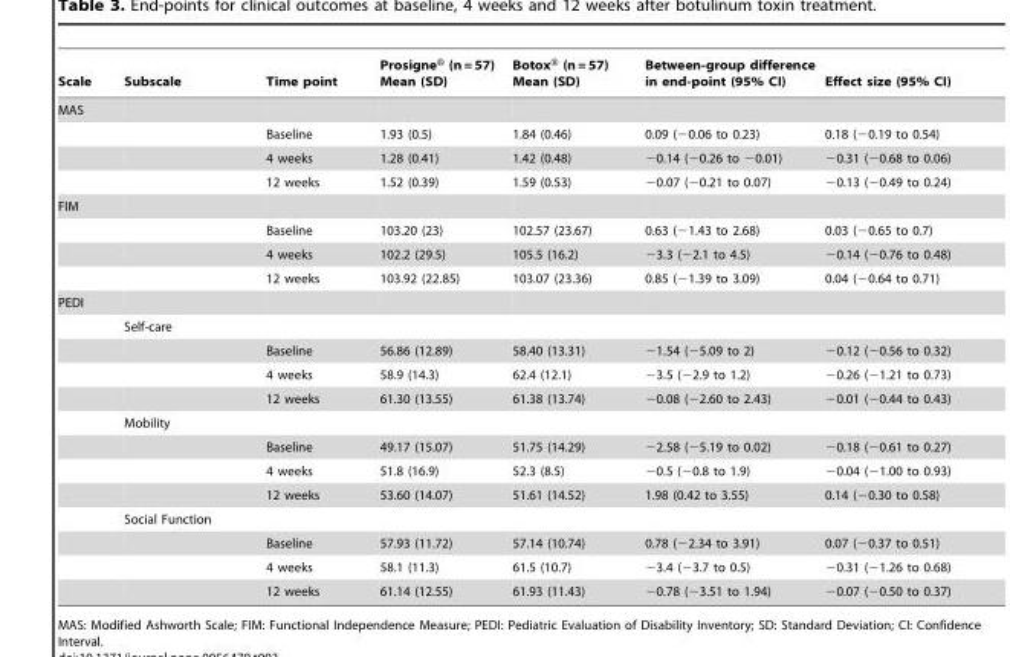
<table><thead><tr><td>Scale</td><td>Subscale</td><td>Time point</td><td>Prosigne® (n = 57) Mean (SD)</td><td>Botox® (n = 57) Mean (SD)</td><td>Between-group difference in end-point (95% CI)</td><td>Effect size (95% CI)</td></tr></thead><tbody><tr><td colspan="7">MAS</td></tr><tr><td></td><td></td><td>Baseline</td><td>1.93 (0.5)</td><td>1.84 (0.46)</td><td>0.09 (−0.06 to 0.23)</td><td>0.18 (−0.19 to 0.54)</td></tr><tr><td></td><td></td><td>4 weeks</td><td>1.28 (0.41)</td><td>1.42 (0.48)</td><td>−0.14 (−0.26 to −0.01)</td><td>−0.31 (−0.68 to 0.06)</td></tr><tr><td></td><td></td><td>12 weeks</td><td>1.52 (0.39)</td><td>1.59 (0.53)</td><td>−0.07 (−0.21 to 0.07)</td><td>−0.13 (−0.49 to 0.24)</td></tr><tr><td colspan="7">FIM</td></tr><tr><td></td><td></td><td>Baseline</td><td>103.20 (23)</td><td>102.57 (23.67)</td><td>0.63 (−1.43 to 2.68)</td><td>0.03 (−0.65 to 0.7)</td></tr><tr><td></td><td></td><td>4 weeks</td><td>102.2 (29.5)</td><td>105.5 (16.2)</td><td>−3.3 (−2.1 to 4.5)</td><td>−0.14 (−0.76 to 0.48)</td></tr><tr><td></td><td></td><td>12 weeks</td><td>103.92 (22.85)</td><td>103.07 (23.36)</td><td>0.85 (−1.39 to 3.09)</td><td>0.04 (−0.64 to 0.71)</td></tr><tr><td colspan="7">PEDI</td></tr><tr><td></td><td>Self-care</td><td></td><td></td><td></td><td></td><td></td></tr><tr><td></td><td></td><td>Baseline</td><td>56.86 (12.89)</td><td>58.40 (13.31)</td><td>−1.54 (−5.09 to 2)</td><td>−0.12 (−0.56 to 0.32)</td></tr><tr><td></td><td></td><td>4 weeks</td><td>58.9 (14.3)</td><td>62.4 (12.1)</td><td>−3.5 (−2.9 to 1.2)</td><td>−0.26 (−1.21 to 0.73)</td></tr><tr><td></td><td></td><td>12 weeks</td><td>61.30 (13.55)</td><td>61.38 (13.74)</td><td>−0.08 (−2.60 to 2.43)</td><td>−0.01 (−0.44 to 0.43)</td></tr><tr><td></td><td>Mobility</td><td></td><td></td><td></td><td></td><td></td></tr><tr><td></td><td></td><td>Baseline</td><td>49.17 (15.07)</td><td>51.75 (14.29)</td><td>−2.58 (−5.19 to 0.02)</td><td>−0.18 (−0.61 to 0.27)</td></tr><tr><td></td><td></td><td>4 weeks</td><td>51.8 (16.9)</td><td>52.3 (8.5)</td><td>−0.5 (−0.8 to 1.9)</td><td>−0.04 (−1.00 to 0.93)</td></tr><tr><td></td><td></td><td>12 weeks</td><td>53.60 (14.07)</td><td>51.61 (14.52)</td><td>1.98 (0.42 to 3.55)</td><td>0.14 (−0.30 to 0.58)</td></tr><tr><td></td><td>Social Function</td><td></td><td></td><td></td><td></td><td></td></tr><tr><td></td><td></td><td>Baseline</td><td>57.93 (11.72)</td><td>57.14 (10.74)</td><td>0.78 (−2.34 to 3.91)</td><td>0.07 (−0.37 to 0.51)</td></tr><tr><td></td><td></td><td>4 weeks</td><td>58.1 (11.3)</td><td>61.5 (10.7)</td><td>−3.4 (−3.7 to 0.5)</td><td>−0.31 (−1.26 to 0.68)</td></tr><tr><td></td><td></td><td>12 weeks</td><td>61.14 (12.55)</td><td>61.93 (11.43)</td><td>−0.78 (−3.51 to 1.94)</td><td>−0.07 (−0.50 to 0.37)</td></tr></tbody></table>